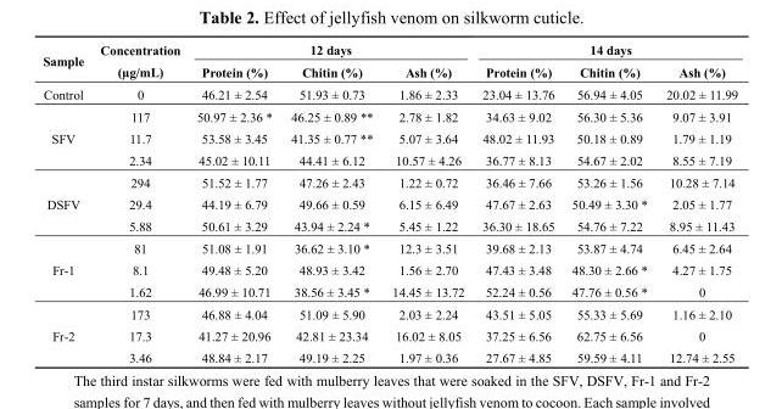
<table><thead><tr><td rowspan="2">Sample</td><td rowspan="2">Concentration (µg/mL)</td><td colspan="3">12 days</td><td colspan="3">14 days</td></tr><tr><td>Protein (%)</td><td>Chitin (%)</td><td>Ash (%)</td><td>Protein (%)</td><td>Chitin (%)</td><td>Ash (%)</td></tr></thead><tbody><tr><td>Control</td><td>0</td><td>46.21 ± 2.54</td><td>51.93 ± 0.73</td><td>1.86 ± 2.33</td><td>23.04 ± 13.76</td><td>56.94 ± 4.05</td><td>20.02 ± 11.99</td></tr><tr><td rowspan="3">SFV</td><td>117</td><td>50.97 ± 2.36 *</td><td>46.25 ± 0.89 **</td><td>2.78 ± 1.82</td><td>34.63 ± 9.02</td><td>56.30 ± 5.36</td><td>9.07 ± 3.91</td></tr><tr><td>11.7</td><td>53.58 ± 3.45</td><td>41.35 ± 0.77 **</td><td>5.07 ± 3.64</td><td>48.02 ± 11.93</td><td>50.18 ± 0.89</td><td>1.79 ± 1.19</td></tr><tr><td>2.34</td><td>45.02 ± 10.11</td><td>44.41 ± 6.12</td><td>10.57 ± 4.26</td><td>36.77 ± 8.13</td><td>54.67 ± 2.02</td><td>8.55 ± 7.19</td></tr><tr><td rowspan="3">DSFV</td><td>294</td><td>51.52 ± 1.77</td><td>47.26 ± 2.43</td><td>1.22 ± 0.72</td><td>36.46 ± 7.66</td><td>53.26 ± 1.56</td><td>10.28 ± 7.14</td></tr><tr><td>29.4</td><td>44.19 ± 6.79</td><td>49.66 ± 0.59</td><td>6.15 ± 6.49</td><td>47.67 ± 2.63</td><td>50.49 ± 3.30 *</td><td>2.05 ± 1.77</td></tr><tr><td>5.88</td><td>50.61 ± 3.29</td><td>43.94 ± 2.24 *</td><td>5.45 ± 1.22</td><td>36.30 ± 18.65</td><td>54.76 ± 7.22</td><td>8.95 ± 11.43</td></tr><tr><td rowspan="3">Fr-1</td><td>81</td><td>51.08 ± 1.91</td><td>36.62 ± 3.10 *</td><td>12.3 ± 3.51</td><td>39.68 ± 2.13</td><td>53.87 ± 4.74</td><td>6.45 ± 2.64</td></tr><tr><td>8.1</td><td>49.48 ± 5.20</td><td>48.93 ± 3.42</td><td>1.56 ± 2.70</td><td>47.43 ± 3.48</td><td>48.30 ± 2.66 *</td><td>4.27 ± 1.75</td></tr><tr><td>1.62</td><td>46.99 ± 10.71</td><td>38.56 ± 3.45 *</td><td>14.45 ± 13.72</td><td>52.24 ± 0.56</td><td>47.76 ± 0.56 *</td><td>0</td></tr><tr><td rowspan="3">Fr-2</td><td>173</td><td>46.88 ± 4.04</td><td>51.09 ± 5.90</td><td>2.03 ± 2.24</td><td>43.51 ± 5.05</td><td>55.33 ± 5.69</td><td>1.16 ± 2.10</td></tr><tr><td>17.3</td><td>41.27 ± 20.96</td><td>42.81 ± 23.34</td><td>16.02 ± 8.05</td><td>37.25 ± 6.56</td><td>62.75 ± 6.56</td><td>0</td></tr><tr><td>3.46</td><td>48.84 ± 2.17</td><td>49.19 ± 2.25</td><td>1.97 ± 0.36</td><td>27.67 ± 4.85</td><td>59.59 ± 4.11</td><td>12.74 ± 2.55</td></tr></tbody></table>